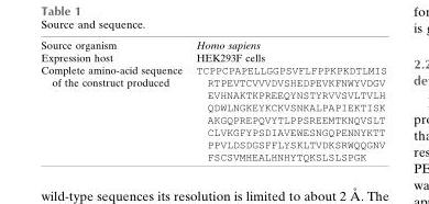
<table><tbody><tr><td>Source organism</td><td>Homo sapiens</td></tr><tr><td>Expression host</td><td>HEK293F cells</td></tr><tr><td>Complete amino-acid sequence of the construct produced</td><td>TCPPCPAPELLGGPSVFLFPPKPKDTLMIS RTPEVTCVVVDVSHEDPEVKFNWYVDGV EVHNAKTKPREEQYNSTYRVVSVLTVLH QDWLNGKEYKCKVSNKALPAPIEKTISK AKGQPREPQVYTLPPSREEMTKNQVSLT CLVKGFYPSDIAVEWESNGQPENNYKTT PPVLDSDGSFFLYSKLTVDKSRWQQGNV FSCSVMHEALHNHYTQKSLSLSPGK</td></tr></tbody></table>